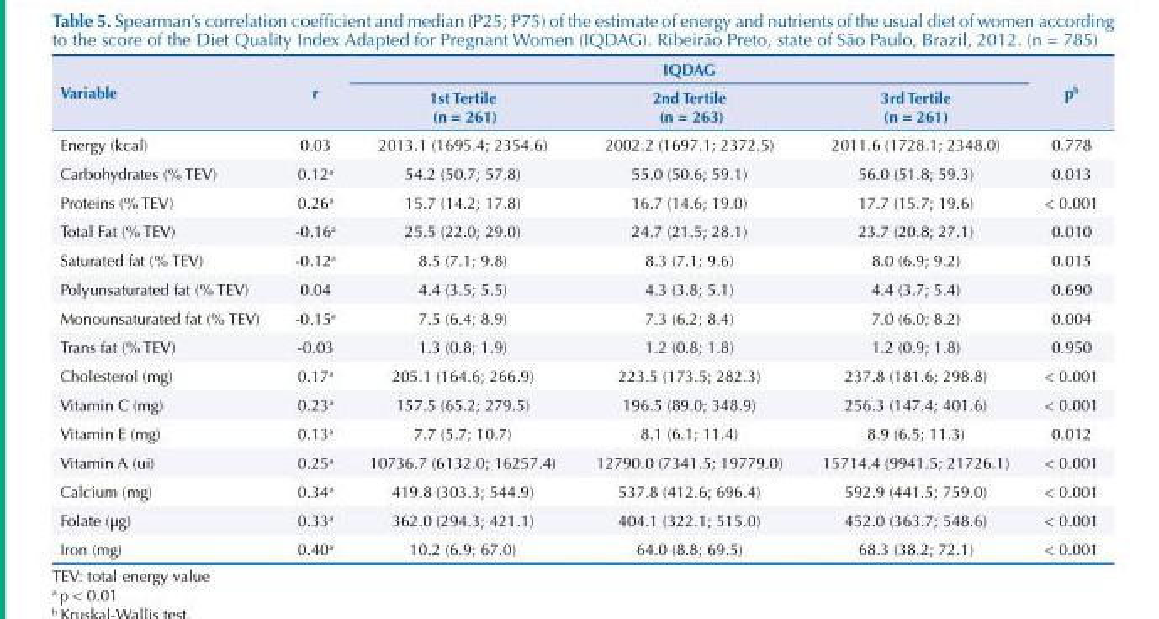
<table><thead><tr><td rowspan="2">Variable</td><td rowspan="2">r</td><td colspan="3">IQDAG</td><td rowspan="2">p<sup>b</sup></td></tr><tr><td>1st Tertile (n = 261)</td><td>2nd Tertile (n = 263)</td><td>3rd Tertile (n = 261)</td></tr></thead><tbody><tr><td>Energy (kcal)</td><td>0.03</td><td>2013.1 (1695.4; 2354.6)</td><td>2002.2 (1697.1; 2372.5)</td><td>2011.6 (1728.1; 2348.0)</td><td>0.778</td></tr><tr><td>Carbohydrates (% TEV)</td><td>0.12<sup>a</sup></td><td>54.2 (50.7; 57.8)</td><td>55.0 (50.6; 59.1)</td><td>56.0 (51.8; 59.3)</td><td>0.013</td></tr><tr><td>Proteins (% TEV)</td><td>0.26<sup>a</sup></td><td>15.7 (14.2; 17.8)</td><td>16.7 (14.6; 19.0)</td><td>17.7 (15.7; 19.6)</td><td>&lt; 0.001</td></tr><tr><td>Total Fat (% TEV)</td><td>-0.16<sup>a</sup></td><td>25.5 (22.0; 29.0)</td><td>24.7 (21.5; 28.1)</td><td>23.7 (20.8; 27.1)</td><td>0.010</td></tr><tr><td>Saturated fat (% TEV)</td><td>-0.12<sup>a</sup></td><td>8.5 (7.1; 9.8)</td><td>8.3 (7.1; 9.6)</td><td>8.0 (6.9; 9.2)</td><td>0.015</td></tr><tr><td>Polyunsaturated fat (% TEV)</td><td>0.04</td><td>4.4 (3.5; 5.5)</td><td>4.3 (3.8; 5.1)</td><td>4.4 (3.7; 5.4)</td><td>0.690</td></tr><tr><td>Monounsaturated fat (% TEV)</td><td>-0.15<sup>a</sup></td><td>7.5 (6.4; 8.9)</td><td>7.3 (6.2; 8.4)</td><td>7.0 (6.0; 8.2)</td><td>0.004</td></tr><tr><td>Trans fat (% TEV)</td><td>-0.03</td><td>1.3 (0.8; 1.9)</td><td>1.2 (0.8; 1.8)</td><td>1.2 (0.9; 1.8)</td><td>0.950</td></tr><tr><td>Cholesterol (mg)</td><td>0.17<sup>a</sup></td><td>205.1 (164.6; 266.9)</td><td>223.5 (173.5; 282.3)</td><td>237.8 (181.6; 298.8)</td><td>&lt; 0.001</td></tr><tr><td>Vitamin C (mg)</td><td>0.23<sup>a</sup></td><td>157.5 (65.2; 279.5)</td><td>196.5 (89.0; 348.9)</td><td>256.3 (147.4; 401.6)</td><td>&lt; 0.001</td></tr><tr><td>Vitamin E (mg)</td><td>0.13<sup>a</sup></td><td>7.7 (5.7; 10.7)</td><td>8.1 (6.1; 11.4)</td><td>8.9 (6.5; 11.3)</td><td>0.012</td></tr><tr><td>Vitamin A (ui)</td><td>0.25<sup>a</sup></td><td>10736.7 (6132.0; 16257.4)</td><td>12790.0 (7341.5; 19779.0)</td><td>15714.4 (9941.5; 21726.1)</td><td>&lt; 0.001</td></tr><tr><td>Calcium (mg)</td><td>0.34<sup>a</sup></td><td>419.8 (303.3; 544.9)</td><td>537.8 (412.6; 696.4)</td><td>592.9 (441.5; 759.0)</td><td>&lt; 0.001</td></tr><tr><td>Folate (µg)</td><td>0.33<sup>a</sup></td><td>362.0 (294.3; 421.1)</td><td>404.1 (322.1; 515.0)</td><td>452.0 (363.7; 548.6)</td><td>&lt; 0.001</td></tr><tr><td>Iron (mg)</td><td>0.40<sup>a</sup></td><td>10.2 (6.9; 67.0)</td><td>64.0 (8.8; 69.5)</td><td>68.3 (38.2; 72.1)</td><td>&lt; 0.001</td></tr></tbody></table>